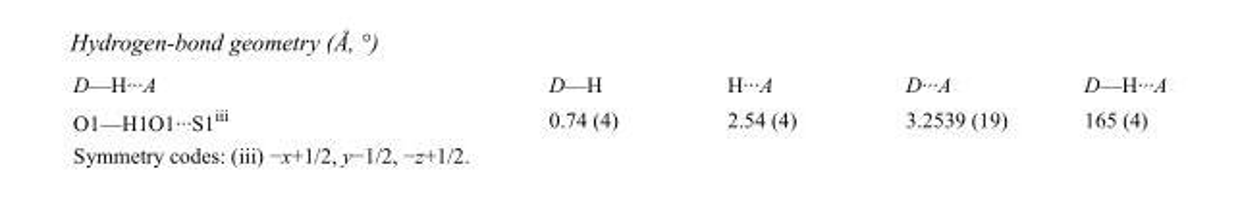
<table><tbody><tr><td>D—H···A</td><td>D—H</td><td>H···A</td><td>D···A</td><td>D—H···A</td></tr><tr><td>O1—H1O1···S1<sup>iii</sup></td><td>0.74 (4)</td><td>2.54 (4)</td><td>3.2539 (19)</td><td>165 (4)</td></tr></tbody></table>